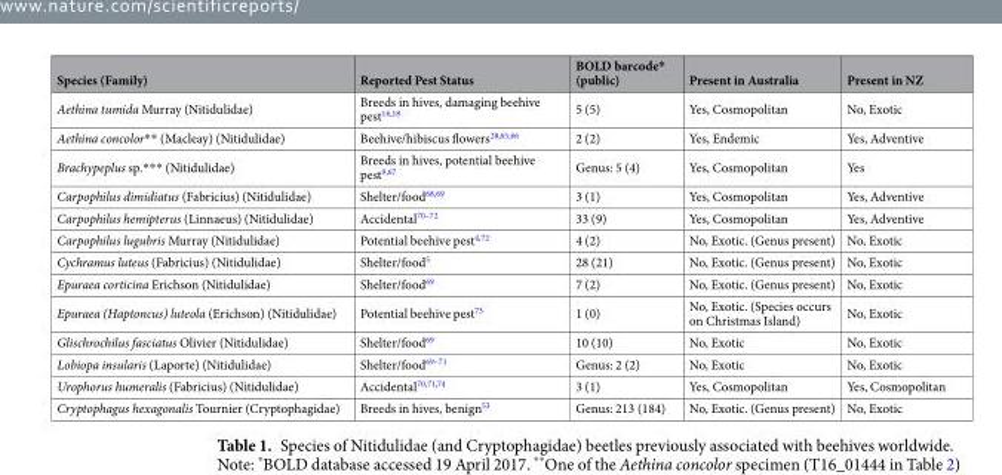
<table><thead><tr><td>Species (Family)</td><td>Reported Pest Status</td><td>BOLD barcode* (public)</td><td>Present in Australia</td><td>Present in NZ</td></tr></thead><tbody><tr><td>Aethina tumida Murray (Nitidulidae)</td><td>Breeds in hives, damaging beehive pest<sup>16,18</sup></td><td>5 (5)</td><td>Yes, Cosmopolitan</td><td>No, Exotic</td></tr><tr><td>Aethina concolor** (Macleay) (Nitidulidae)</td><td>Beehive/hibiscus flowers<sup>28,65,66</sup></td><td>2 (2)</td><td>Yes, Endemic</td><td>Yes, Adventive</td></tr><tr><td>Brachypeplus sp.*** (Nitidulidae)</td><td>Breeds in hives, potential beehive pest<sup>9,67</sup></td><td>Genus: 5 (4)</td><td>Yes, Cosmopolitan</td><td>Yes</td></tr><tr><td>Carpophilus dimidiatus (Fabricius) (Nitidulidae)</td><td>Shelter/food<sup>68,69</sup></td><td>3 (1)</td><td>Yes, Cosmopolitan</td><td>Yes, Adventive</td></tr><tr><td>Carpophilus hemipterus (Linnaeus) (Nitidulidae)</td><td>Accidental<sup>70–72</sup></td><td>33 (9)</td><td>Yes, Cosmopolitan</td><td>Yes, Adventive</td></tr><tr><td>Carpophilus lugubris Murray (Nitidulidae)</td><td>Potential beehive pest<sup>4,72</sup></td><td>4 (2)</td><td>No, Exotic. (Genus present)</td><td>No, Exotic</td></tr><tr><td>Cychramus luteus (Fabricius) (Nitidulidae)</td><td>Shelter/food<sup>5</sup></td><td>28 (21)</td><td>No, Exotic. (Genus present)</td><td>No, Exotic</td></tr><tr><td>Epuraea corticina Erichson (Nitidulidae)</td><td>Shelter/food<sup>69</sup></td><td>7 (2)</td><td>No, Exotic. (Genus present)</td><td>No, Exotic</td></tr><tr><td>Epuraea (Haptoncus) luteola (Erichson) (Nitidulidae)</td><td>Potential beehive pest<sup>73</sup></td><td>1 (0)</td><td>No, Exotic. (Species occurs on Christmas Island)</td><td>No, Exotic</td></tr><tr><td>Glischrochilus fasciatus Olivier (Nitidulidae)</td><td>Shelter/food<sup>69</sup></td><td>10 (10)</td><td>No, Exotic</td><td>No, Exotic</td></tr><tr><td>Lobiopa insularis (Laporte) (Nitidulidae)</td><td>Shelter/food<sup>69–71</sup></td><td>Genus: 2 (2)</td><td>No, Exotic</td><td>No, Exotic</td></tr><tr><td>Urophorus humeralis (Fabricius) (Nitidulidae)</td><td>Accidental<sup>70,71,74</sup></td><td>3 (1)</td><td>Yes, Cosmopolitan</td><td>Yes, Cosmopolitan</td></tr><tr><td>Cryptophagus hexagonalis Tournier (Cryptophagidae)</td><td>Breeds in hives, benign<sup>53</sup></td><td>Genus: 213 (184)</td><td>No, Exotic. (Genus present)</td><td>No, Exotic</td></tr></tbody></table>